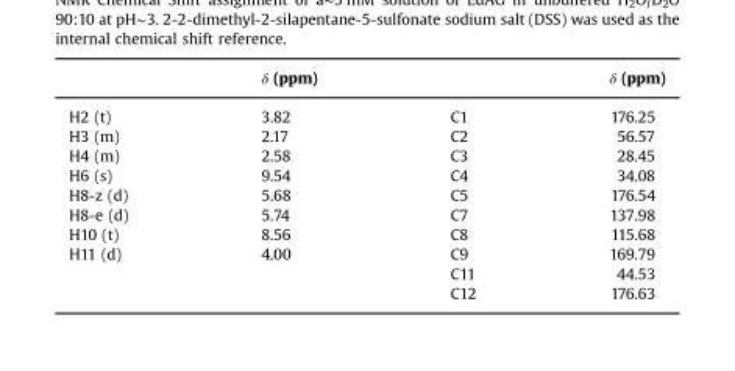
<table><thead><tr><td></td><td>δ (ppm)</td><td></td><td>δ (ppm)</td></tr></thead><tbody><tr><td>H2 (t)</td><td>3.82</td><td>C1</td><td>176.25</td></tr><tr><td>H3 (m)</td><td>2.17</td><td>C2</td><td>56.57</td></tr><tr><td>H4 (m)</td><td>2.58</td><td>C3</td><td>28.45</td></tr><tr><td>H6 (s)</td><td>9.54</td><td>C4</td><td>34.08</td></tr><tr><td>H8-z (d)</td><td>5.68</td><td>C5</td><td>176.54</td></tr><tr><td>H8-e (d)</td><td>5.74</td><td>C7</td><td>137.98</td></tr><tr><td>H10 (t)</td><td>8.56</td><td>C8</td><td>115.68</td></tr><tr><td rowspan="3">H11 (d)</td><td>4.00</td><td>C9</td><td>169.79</td></tr><tr><td></td><td>C11</td><td>44.53</td></tr><tr><td></td><td>C12</td><td>176.63</td></tr></tbody></table>